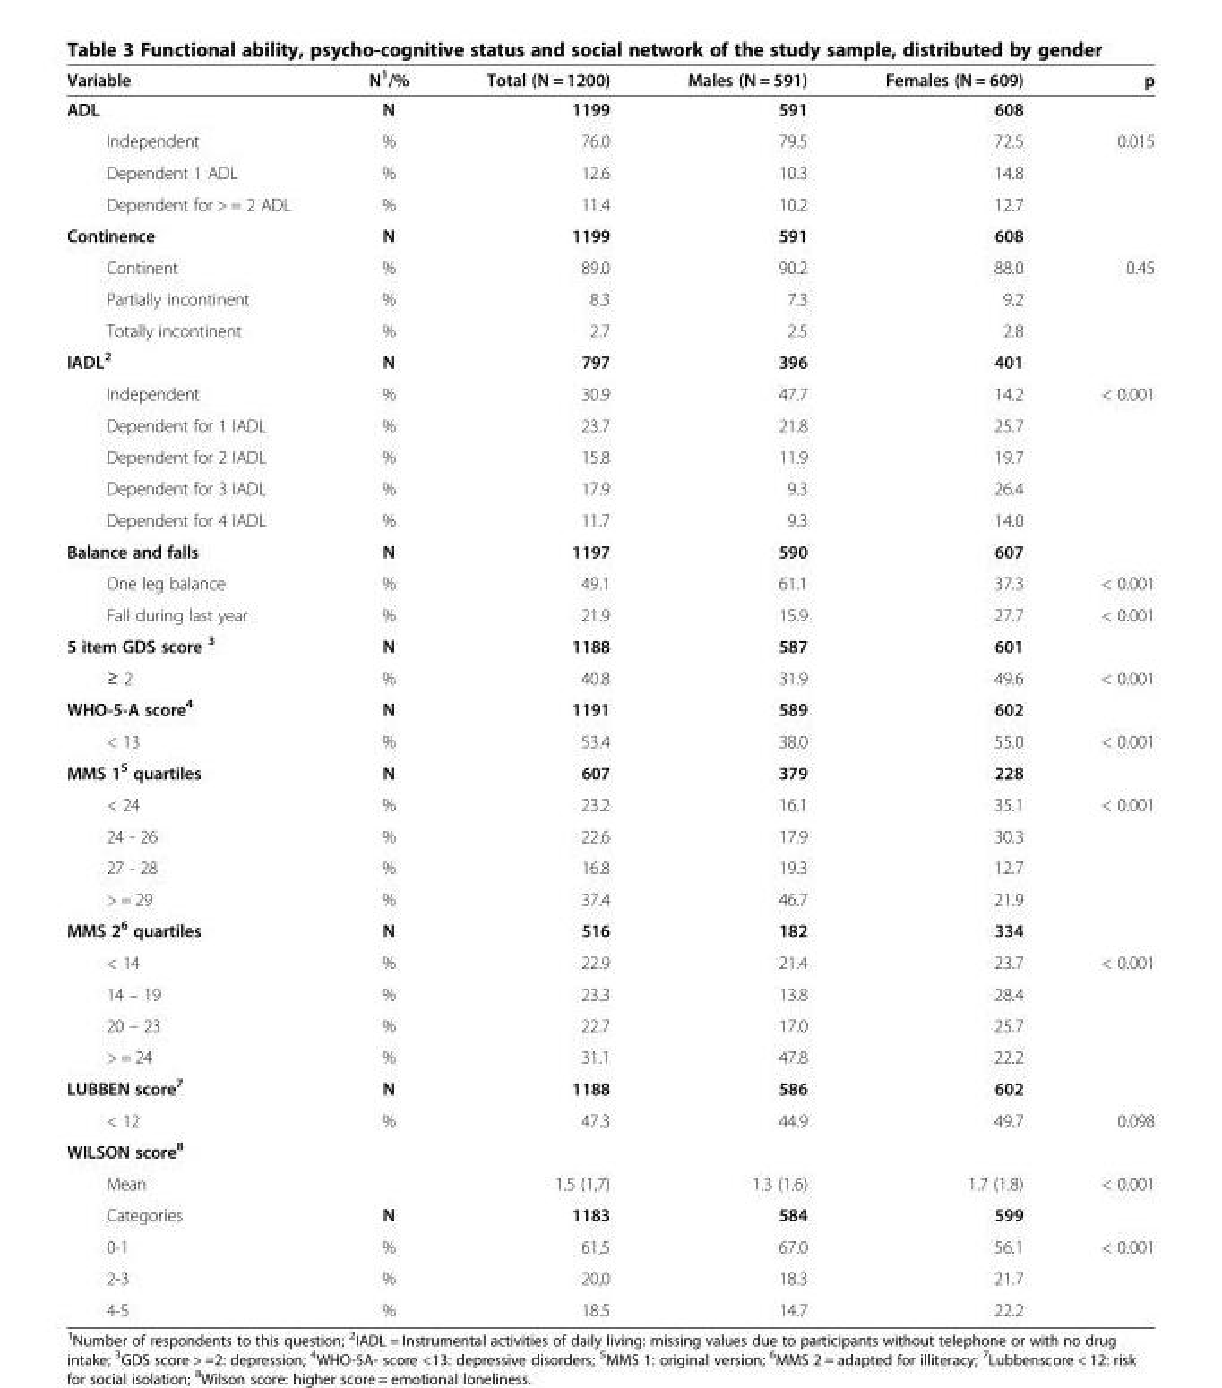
<table><thead><tr><td>Variable</td><td>N<sup>1</sup>/%</td><td>Total (N = 1200)</td><td>Males (N = 591)</td><td>Females (N = 609)</td><td>p</td></tr></thead><tbody><tr><td>ADL</td><td>N</td><td>1199</td><td>591</td><td>608</td><td></td></tr><tr><td>Independent</td><td>%</td><td>76.0</td><td>79.5</td><td>72.5</td><td>0.015</td></tr><tr><td>Dependent 1 ADL</td><td>%</td><td>12.6</td><td>10.3</td><td>14.8</td><td></td></tr><tr><td>Dependent for &gt; = 2 ADL</td><td>%</td><td>11.4</td><td>10.2</td><td>12.7</td><td></td></tr><tr><td>Continence</td><td>N</td><td>1199</td><td>591</td><td>608</td><td></td></tr><tr><td>Continent</td><td>%</td><td>89.0</td><td>90.2</td><td>88.0</td><td>0.45</td></tr><tr><td>Partially incontinent</td><td>%</td><td>8.3</td><td>7.3</td><td>9.2</td><td></td></tr><tr><td>Totally incontinent</td><td>%</td><td>2.7</td><td>2.5</td><td>2.8</td><td></td></tr><tr><td>IADL<sup>2</sup></td><td>N</td><td>797</td><td>396</td><td>401</td><td></td></tr><tr><td>Independent</td><td>%</td><td>30.9</td><td>47.7</td><td>14.2</td><td>&lt; 0.001</td></tr><tr><td>Dependent for 1 IADL</td><td>%</td><td>23.7</td><td>21.8</td><td>25.7</td><td></td></tr><tr><td>Dependent for 2 IADL</td><td>%</td><td>15.8</td><td>11.9</td><td>19.7</td><td></td></tr><tr><td>Dependent for 3 IADL</td><td>%</td><td>17.9</td><td>9.3</td><td>26.4</td><td></td></tr><tr><td>Dependent for 4 IADL</td><td>%</td><td>11.7</td><td>9.3</td><td>14.0</td><td></td></tr><tr><td>Balance and falls</td><td>N</td><td>1197</td><td>590</td><td>607</td><td></td></tr><tr><td>One leg balance</td><td>%</td><td>49.1</td><td>61.1</td><td>37.3</td><td>&lt; 0.001</td></tr><tr><td>Fall during last year</td><td>%</td><td>21.9</td><td>15.9</td><td>27.7</td><td>&lt; 0.001</td></tr><tr><td>5 item GDS score <sup>3</sup></td><td>N</td><td>1188</td><td>587</td><td>601</td><td></td></tr><tr><td>≥ 2</td><td>%</td><td>40.8</td><td>31.9</td><td>49.6</td><td>&lt; 0.001</td></tr><tr><td>WHO-5-A score<sup>4</sup></td><td>N</td><td>1191</td><td>589</td><td>602</td><td></td></tr><tr><td>&lt; 13</td><td>%</td><td>53.4</td><td>38.0</td><td>55.0</td><td>&lt; 0.001</td></tr><tr><td>MMS 1<sup>5</sup> quartiles</td><td>N</td><td>607</td><td>379</td><td>228</td><td></td></tr><tr><td>&lt; 24</td><td>%</td><td>23.2</td><td>16.1</td><td>35.1</td><td>&lt; 0.001</td></tr><tr><td>24 - 26</td><td>%</td><td>22.6</td><td>17.9</td><td>30.3</td><td></td></tr><tr><td>27 - 28</td><td>%</td><td>16.8</td><td>19.3</td><td>12.7</td><td></td></tr><tr><td>&gt; = 29</td><td>%</td><td>37.4</td><td>46.7</td><td>21.9</td><td></td></tr><tr><td>MMS 2<sup>6</sup> quartiles</td><td>N</td><td>516</td><td>182</td><td>334</td><td></td></tr><tr><td>&lt; 14</td><td>%</td><td>22.9</td><td>21.4</td><td>23.7</td><td>&lt; 0.001</td></tr><tr><td>14 – 19</td><td>%</td><td>23.3</td><td>13.8</td><td>28.4</td><td></td></tr><tr><td>20 – 23</td><td>%</td><td>22.7</td><td>17.0</td><td>25.7</td><td></td></tr><tr><td>&gt; = 24</td><td>%</td><td>31.1</td><td>47.8</td><td>22.2</td><td></td></tr><tr><td>LUBBEN score<sup>7</sup></td><td>N</td><td>1188</td><td>586</td><td>602</td><td></td></tr><tr><td>&lt; 12</td><td>%</td><td>47.3</td><td>44.9</td><td>49.7</td><td>0.098</td></tr><tr><td colspan="6">WILSON score<sup>8</sup></td></tr><tr><td>Mean</td><td></td><td>1.5 (1,7)</td><td>1.3 (1.6)</td><td>1.7 (1.8)</td><td>&lt; 0.001</td></tr><tr><td>Categories</td><td>N</td><td>1183</td><td>584</td><td>599</td><td></td></tr><tr><td>0-1</td><td>%</td><td>61,5</td><td>67.0</td><td>56.1</td><td>&lt; 0.001</td></tr><tr><td>2-3</td><td>%</td><td>20,0</td><td>18.3</td><td>21.7</td><td></td></tr><tr><td>4-5</td><td>%</td><td>18.5</td><td>14.7</td><td>22.2</td><td></td></tr></tbody></table>